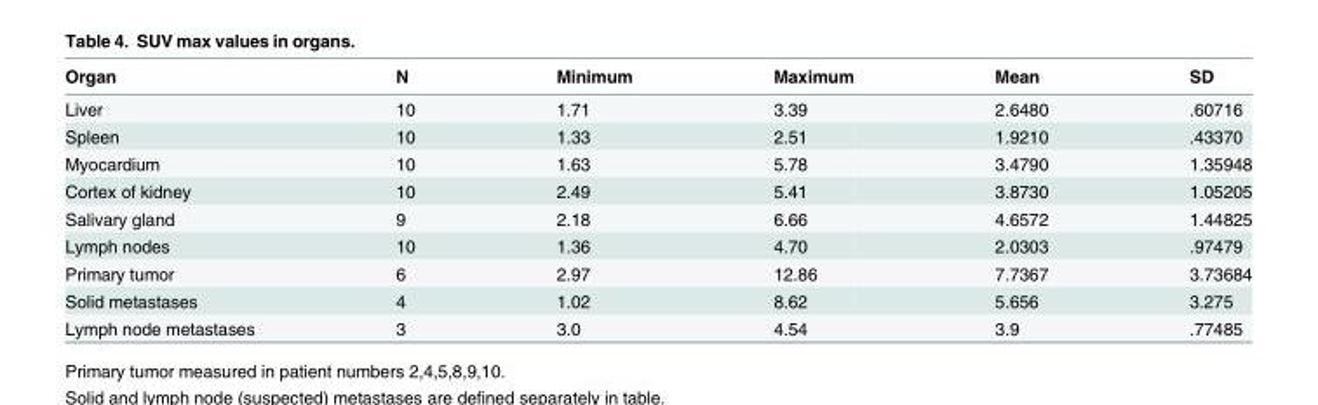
<table><thead><tr><td>Organ</td><td>N</td><td>Minimum</td><td>Maximum</td><td>Mean</td><td>SD</td></tr></thead><tbody><tr><td>Liver</td><td>10</td><td>1.71</td><td>3.39</td><td>2.6480</td><td>.60716</td></tr><tr><td>Spleen</td><td>10</td><td>1.33</td><td>2.51</td><td>1.9210</td><td>.43370</td></tr><tr><td>Myocardium</td><td>10</td><td>1.63</td><td>5.78</td><td>3.4790</td><td>1.35948</td></tr><tr><td>Cortex of kidney</td><td>10</td><td>2.49</td><td>5.41</td><td>3.8730</td><td>1.05205</td></tr><tr><td>Salivary gland</td><td>9</td><td>2.18</td><td>6.66</td><td>4.6572</td><td>1.44825</td></tr><tr><td>Lymph nodes</td><td>10</td><td>1.36</td><td>4.70</td><td>2.0303</td><td>.97479</td></tr><tr><td>Primary tumor</td><td>6</td><td>2.97</td><td>12.86</td><td>7.7367</td><td>3.73684</td></tr><tr><td>Solid metastases</td><td>4</td><td>1.02</td><td>8.62</td><td>5.656</td><td>3.275</td></tr><tr><td>Lymph node metastases</td><td>3</td><td>3.0</td><td>4.54</td><td>3.9</td><td>.77485</td></tr></tbody></table>